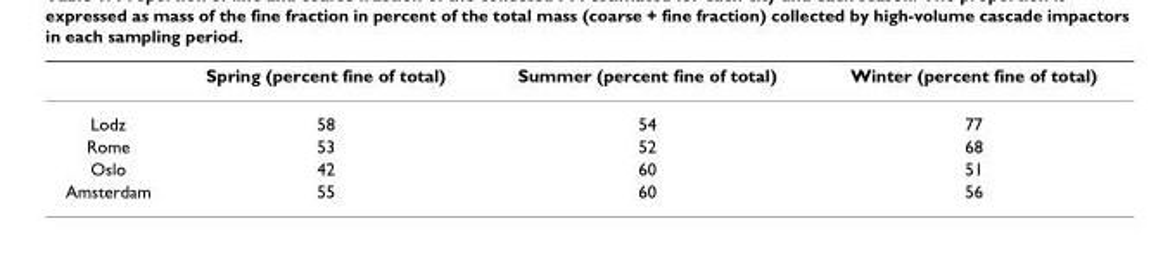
<table><thead><tr><td></td><td>Spring (percent fine of total)</td><td>Summer (percent fine of total)</td><td>Winter (percent fine of total)</td></tr></thead><tbody><tr><td>Lodz</td><td>58</td><td>54</td><td>77</td></tr><tr><td>Rome</td><td>53</td><td>52</td><td>68</td></tr><tr><td>Oslo</td><td>42</td><td>60</td><td>51</td></tr><tr><td>Amsterdam</td><td>55</td><td>60</td><td>56</td></tr></tbody></table>